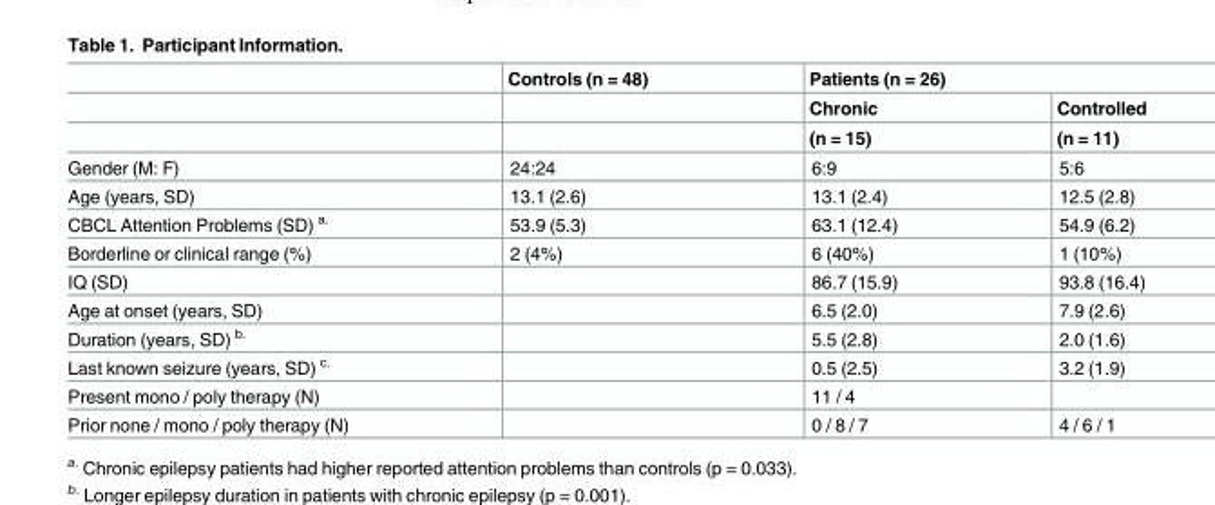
<table><thead><tr><td rowspan="3"></td><td rowspan="3">Controls (n = 48)</td><td colspan="2">Patients (n = 26)</td></tr><tr><td rowspan="2">Chronic (n = 15)</td><td rowspan="2">Controlled (n = 11)</td></tr><tr></tr></thead><tbody><tr><td>Gender (M: F)</td><td>24:24</td><td>6:9</td><td>5:6</td></tr><tr><td>Age (years, SD)</td><td>13.1 (2.6)</td><td>13.1 (2.4)</td><td>12.5 (2.8)</td></tr><tr><td>CBCL Attention Problems (SD) <sup>a.</sup></td><td>53.9 (5.3)</td><td>63.1 (12.4)</td><td>54.9 (6.2)</td></tr><tr><td>Borderline or clinical range (%)</td><td>2 (4%)</td><td>6 (40%)</td><td>1 (10%)</td></tr><tr><td>IQ (SD)</td><td></td><td>86.7 (15.9)</td><td>93.8 (16.4)</td></tr><tr><td>Age at onset (years, SD)</td><td></td><td>6.5 (2.0)</td><td>7.9 (2.6)</td></tr><tr><td>Duration (years, SD) <sup>b.</sup></td><td></td><td>5.5 (2.8)</td><td>2.0 (1.6)</td></tr><tr><td>Last known seizure (years, SD) <sup>c.</sup></td><td></td><td>0.5 (2.5)</td><td>3.2 (1.9)</td></tr><tr><td>Present mono / poly therapy (N)</td><td></td><td>11 / 4</td><td></td></tr><tr><td>Prior none / mono / poly therapy (N)</td><td></td><td>0 / 8 / 7</td><td>4 / 6 / 1</td></tr></tbody></table>